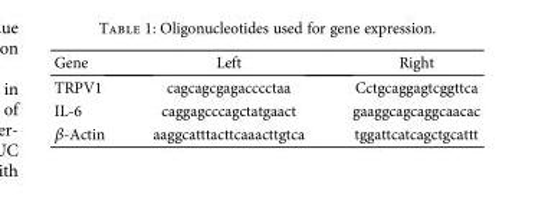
<table><thead><tr><td>Gene</td><td>Left</td><td>Right</td></tr></thead><tbody><tr><td>TRPV1</td><td>cagcagcgagacccctaa</td><td>Cctgcaggagtcggttca</td></tr><tr><td>IL-6</td><td>caggagcccagctatgaact</td><td>gaaggcagcaggcaacac</td></tr><tr><td>β-Actin</td><td>aaggcatttacttcaaacttgtca</td><td>tggattcatcagctgcattt</td></tr></tbody></table>